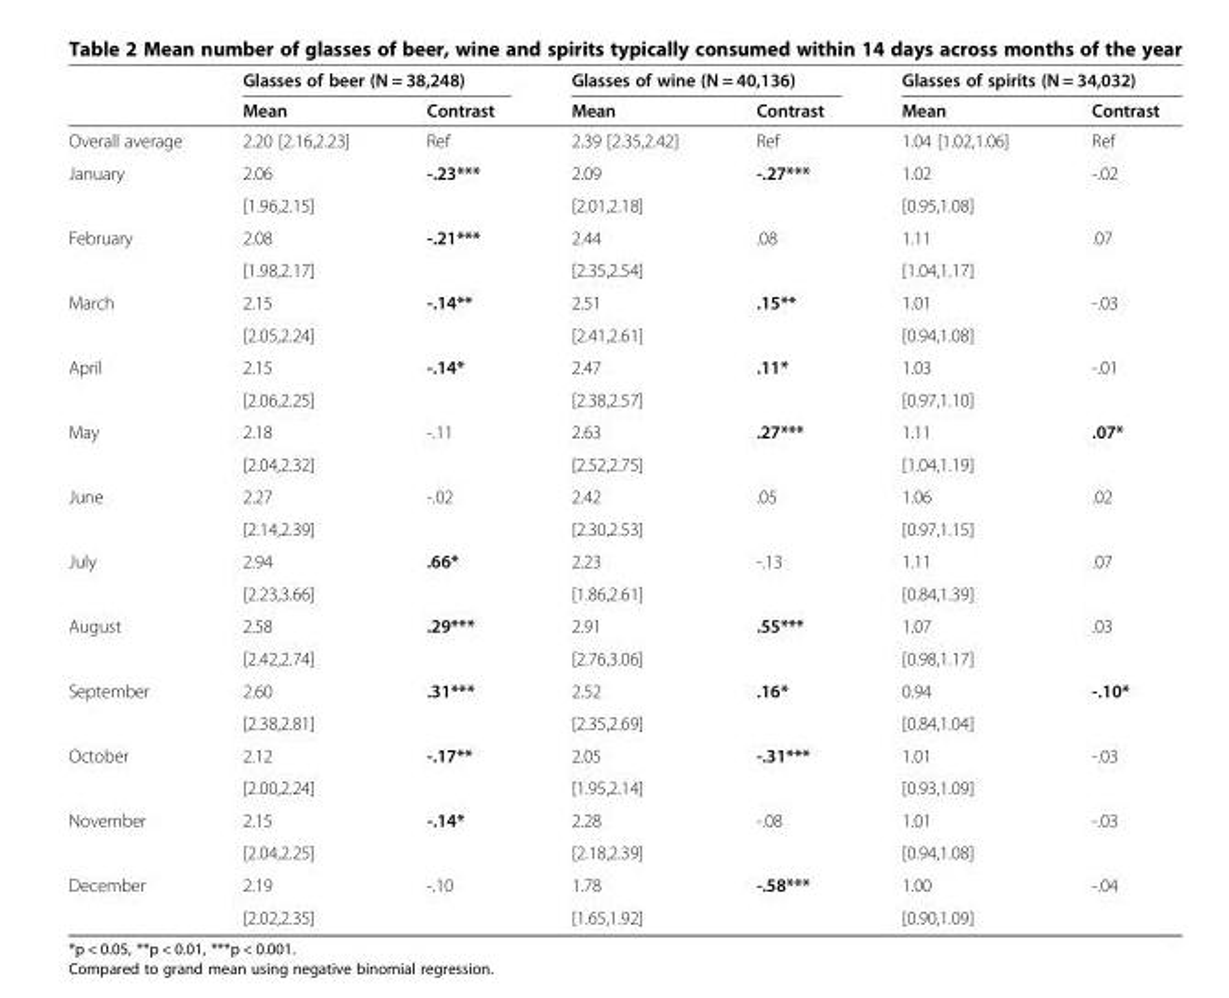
<table><thead><tr><td rowspan="2"></td><td colspan="2">Glasses of beer (N = 38,248)</td><td colspan="2">Glasses of wine (N = 40,136)</td><td colspan="2">Glasses of spirits (N = 34,032)</td></tr><tr><td>Mean</td><td>Contrast</td><td>Mean</td><td>Contrast</td><td>Mean</td><td>Contrast</td></tr></thead><tbody><tr><td>Overall average</td><td>2.20 [2.16,2.23]</td><td>Ref</td><td>2.39 [2.35,2.42]</td><td>Ref</td><td>1.04 [1.02,1.06]</td><td>Ref</td></tr><tr><td rowspan="2">January</td><td>2.06</td><td>-.23***</td><td>2.09</td><td>-.27***</td><td>1.02</td><td>-.02</td></tr><tr><td>[1.96,2.15]</td><td></td><td>[2.01,2.18]</td><td></td><td>[0.95,1.08]</td><td></td></tr><tr><td rowspan="2">February</td><td>2.08</td><td>-.21***</td><td>2.44</td><td>.08</td><td>1.11</td><td>.07</td></tr><tr><td>[1.98,2.17]</td><td></td><td>[2.35,2.54]</td><td></td><td>[1.04,1.17]</td><td></td></tr><tr><td rowspan="2">March</td><td>2.15</td><td>-.14**</td><td>2.51</td><td>.15**</td><td>1.01</td><td>-.03</td></tr><tr><td>[2.05,2.24]</td><td></td><td>[2.41,2.61]</td><td></td><td>[0.94,1.08]</td><td></td></tr><tr><td rowspan="2">April</td><td>2.15</td><td>-.14*</td><td>2.47</td><td>.11*</td><td>1.03</td><td>-.01</td></tr><tr><td>[2.06,2.25]</td><td></td><td>[2.38,2.57]</td><td></td><td>[0.97,1.10]</td><td></td></tr><tr><td rowspan="2">May</td><td>2.18</td><td>-.11</td><td>2.63</td><td>.27***</td><td>1.11</td><td>.07*</td></tr><tr><td>[2.04,2.32]</td><td></td><td>[2.52,2.75]</td><td></td><td>[1.04,1.19]</td><td></td></tr><tr><td rowspan="2">June</td><td>2.27</td><td>-.02</td><td>2.42</td><td>.05</td><td>1.06</td><td>.02</td></tr><tr><td>[2.14,2.39]</td><td></td><td>[2.30,2.53]</td><td></td><td>[0.97,1.15]</td><td></td></tr><tr><td rowspan="2">July</td><td>2.94</td><td>.66*</td><td>2.23</td><td>-.13</td><td>1.11</td><td>.07</td></tr><tr><td>[2.23,3.66]</td><td></td><td>[1.86,2.61]</td><td></td><td>[0.84,1.39]</td><td></td></tr><tr><td rowspan="2">August</td><td>2.58</td><td>.29***</td><td>2.91</td><td>.55***</td><td>1.07</td><td>.03</td></tr><tr><td>[2.42,2.74]</td><td></td><td>[2.76,3.06]</td><td></td><td>[0.98,1.17]</td><td></td></tr><tr><td rowspan="2">September</td><td>2.60</td><td>.31***</td><td>2.52</td><td>.16*</td><td>0.94</td><td>-.10*</td></tr><tr><td>[2.38,2.81]</td><td></td><td>[2.35,2.69]</td><td></td><td>[0.84,1.04]</td><td></td></tr><tr><td rowspan="2">October</td><td>2.12</td><td>-.17**</td><td>2.05</td><td>-.31***</td><td>1.01</td><td>-.03</td></tr><tr><td>[2.00,2.24]</td><td></td><td>[1.95,2.14]</td><td></td><td>[0.93,1.09]</td><td></td></tr><tr><td rowspan="2">November</td><td>2.15</td><td>-.14*</td><td>2.28</td><td>-.08</td><td>1.01</td><td>-.03</td></tr><tr><td>[2.04,2.25]</td><td></td><td>[2.18,2.39]</td><td></td><td>[0.94,1.08]</td><td></td></tr><tr><td rowspan="2">December</td><td>2.19</td><td>-.10</td><td>1.78</td><td>-.58***</td><td>1.00</td><td>-.04</td></tr><tr><td>[2.02,2.35]</td><td></td><td>[1.65,1.92]</td><td></td><td>[0.90,1.09]</td><td></td></tr></tbody></table>